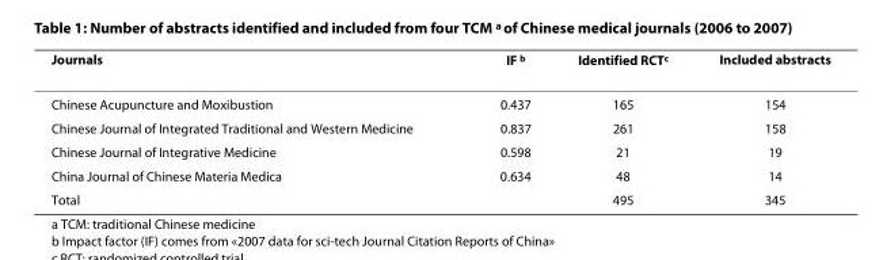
<table><thead><tr><td>Journals</td><td>IF <sup>b</sup></td><td>Identified RCT<sup>c</sup></td><td>Included abstracts</td></tr></thead><tbody><tr><td>Chinese Acupuncture and Moxibustion</td><td>0.437</td><td>165</td><td>154</td></tr><tr><td>Chinese Journal of Integrated Traditional and Western Medicine</td><td>0.837</td><td>261</td><td>158</td></tr><tr><td>Chinese Journal of Integrative Medicine</td><td>0.598</td><td>21</td><td>19</td></tr><tr><td>China Journal of Chinese Materia Medica</td><td>0.634</td><td>48</td><td>14</td></tr><tr><td>Total</td><td></td><td>495</td><td>345</td></tr></tbody></table>